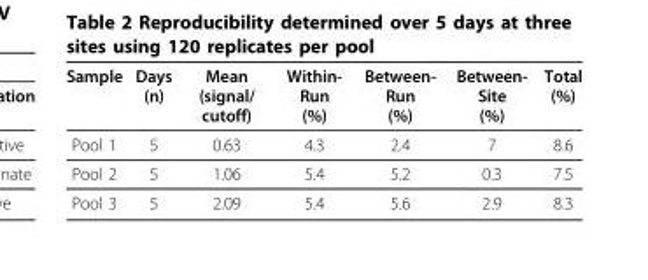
<table><thead><tr><td>Sample</td><td>Days (n)</td><td>Mean (signal/ cutoff)</td><td>Within- Run (%)</td><td>Between- Run (%)</td><td>Between- Site (%)</td><td>Total (%)</td></tr></thead><tbody><tr><td>Pool 1</td><td>5</td><td>0.63</td><td>4.3</td><td>2.4</td><td>7</td><td>8.6</td></tr><tr><td>Pool 2</td><td>5</td><td>1.06</td><td>5.4</td><td>5.2</td><td>0.3</td><td>7.5</td></tr><tr><td>Pool 3</td><td>5</td><td>2.09</td><td>5.4</td><td>5.6</td><td>2.9</td><td>8.3</td></tr></tbody></table>